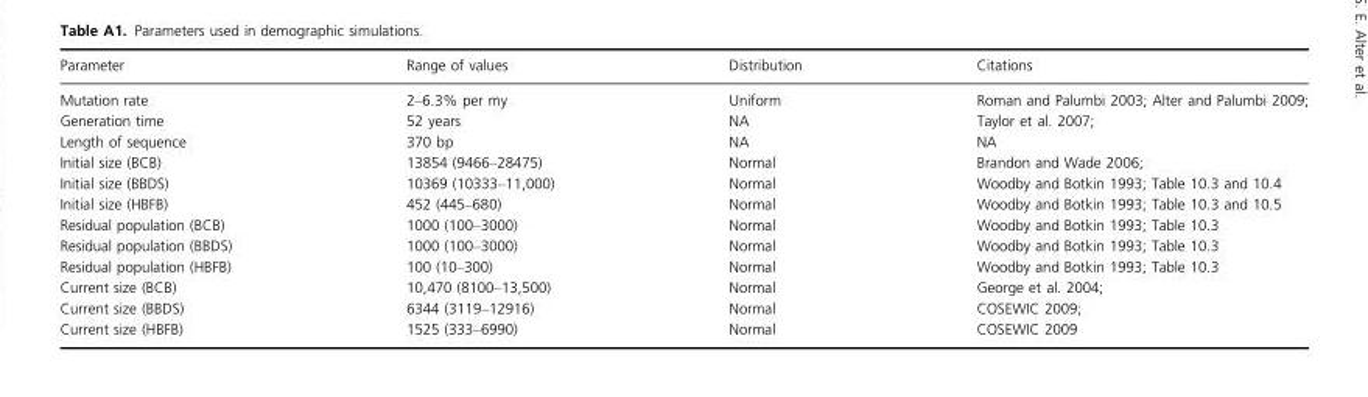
<table><thead><tr><td>Parameter</td><td>Range of values</td><td>Distribution</td><td>Citations</td></tr></thead><tbody><tr><td>Mutation rate</td><td>2–6.3% per my</td><td>Uniform</td><td>Roman and Palumbi 2003; Alter and Palumbi 2009;</td></tr><tr><td>Generation time</td><td>52 years</td><td>NA</td><td>Taylor et al. 2007;</td></tr><tr><td>Length of sequence</td><td>370 bp</td><td>NA</td><td>NA</td></tr><tr><td>Initial size (BCB)</td><td>13854 (9466–28475)</td><td>Normal</td><td>Brandon and Wade 2006;</td></tr><tr><td>Initial size (BBDS)</td><td>10369 (10333–11,000)</td><td>Normal</td><td>Woodby and Botkin 1993; Table 10.3 and 10.4</td></tr><tr><td>Initial size (HBFB)</td><td>452 (445–680)</td><td>Normal</td><td>Woodby and Botkin 1993; Table 10.3 and 10.5</td></tr><tr><td>Residual population (BCB)</td><td>1000 (100–3000)</td><td>Normal</td><td>Woodby and Botkin 1993; Table 10.3</td></tr><tr><td>Residual population (BBDS)</td><td>1000 (100–3000)</td><td>Normal</td><td>Woodby and Botkin 1993; Table 10.3</td></tr><tr><td>Residual population (HBFB)</td><td>100 (10–300)</td><td>Normal</td><td>Woodby and Botkin 1993; Table 10.3</td></tr><tr><td>Current size (BCB)</td><td>10,470 (8100–13,500)</td><td>Normal</td><td>George et al. 2004;</td></tr><tr><td>Current size (BBDS)</td><td>6344 (3119–12916)</td><td>Normal</td><td>COSEWIC 2009;</td></tr><tr><td>Current size (HBFB)</td><td>1525 (333–6990)</td><td>Normal</td><td>COSEWIC 2009</td></tr></tbody></table>